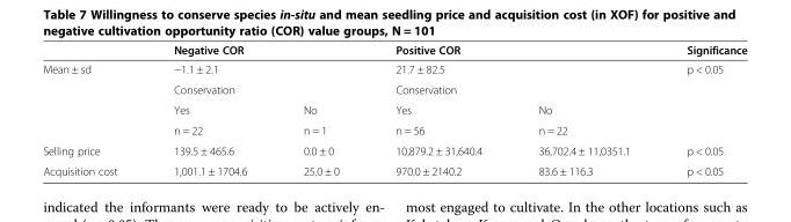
<table><thead><tr><td rowspan="4">Mean ± sd</td><td rowspan="3" colspan="2">Negative COR −1.1 ± 2.1 Conservation</td><td rowspan="3" colspan="2">Positive COR 21.7 ± 82.5 Conservation</td><td rowspan="4">Significance p &lt; 0.05</td></tr><tr></tr><tr></tr><tr><td>Yes</td><td>No</td><td>Yes</td><td>No</td></tr></thead><tbody><tr><td></td><td>n = 22</td><td>n = 1</td><td>n = 56</td><td>n = 22</td><td></td></tr><tr><td>Selling price</td><td>139.5 ± 465.6</td><td>0.0 ± 0</td><td>10,879.2 ± 31,640.4</td><td>36,702.4 ± 11,0351.1</td><td>p &lt; 0.05</td></tr><tr><td>Acquisition cost</td><td>1,001.1 ± 1704.6</td><td>25.0 ± 0</td><td>970.0 ± 2140.2</td><td>83.6 ± 116.3</td><td>p &lt; 0.05</td></tr></tbody></table>